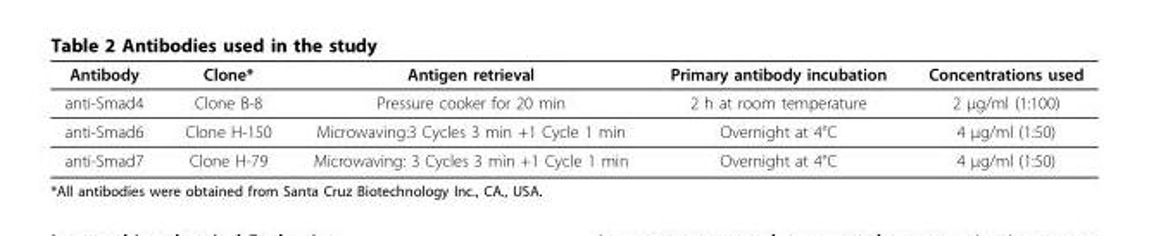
<table><thead><tr><td>Antibody</td><td>Clone*</td><td>Antigen retrieval</td><td>Primary antibody incubation</td><td>Concentrations used</td></tr></thead><tbody><tr><td>anti-Smad4</td><td>Clone B-8</td><td>Pressure cooker for 20 min</td><td>2 h at room temperature</td><td>2 μg/ml (1:100)</td></tr><tr><td>anti-Smad6</td><td>Clone H-150</td><td>Microwaving:3 Cycles 3 min +1 Cycle 1 min</td><td>Overnight at 4°C</td><td>4 μg/ml (1:50)</td></tr><tr><td>anti-Smad7</td><td>Clone H-79</td><td>Microwaving: 3 Cycles 3 min +1 Cycle 1 min</td><td>Overnight at 4°C</td><td>4 μg/ml (1:50)</td></tr></tbody></table>